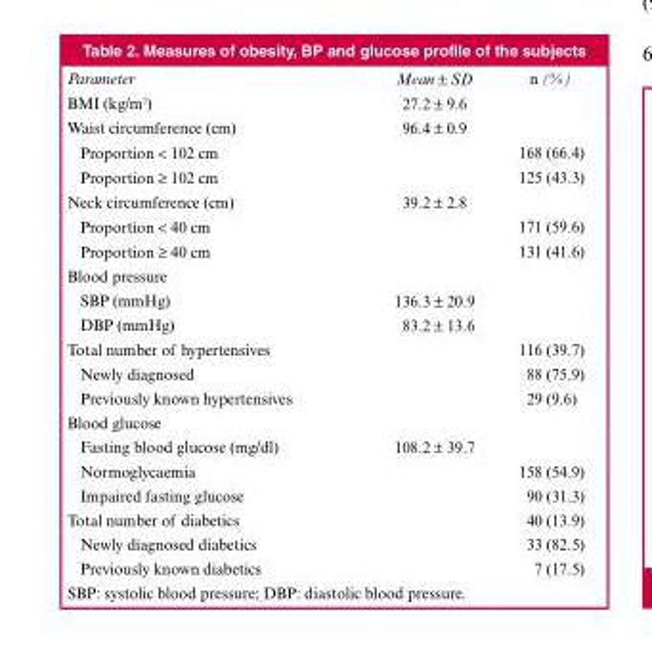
<table><thead><tr><td>Parameter</td><td>Mean ± SD</td><td>n (%)</td></tr></thead><tbody><tr><td>BMI (kg/m<sup>2</sup>)</td><td>27.2 ± 9.6</td><td></td></tr><tr><td>Waist circumference (cm)</td><td>96.4 ± 0.9</td><td></td></tr><tr><td>Proportion &lt; 102 cm</td><td></td><td>168 (66.4)</td></tr><tr><td>Proportion ≥ 102 cm</td><td></td><td>125 (43.3)</td></tr><tr><td>Neck circumference (cm)</td><td>39.2 ± 2.8</td><td></td></tr><tr><td>Proportion &lt; 40 cm</td><td></td><td>171 (59.6)</td></tr><tr><td>Proportion ≥ 40 cm</td><td></td><td>131 (41.6)</td></tr><tr><td colspan="3">Blood pressure</td></tr><tr><td>SBP (mmHg)</td><td>136.3 ± 20.9</td><td></td></tr><tr><td>DBP (mmHg)</td><td>83.2 ± 13.6</td><td></td></tr><tr><td>Total number of hypertensives</td><td></td><td>116 (39.7)</td></tr><tr><td>Newly diagnosed</td><td></td><td>88 (75.9)</td></tr><tr><td>Previously known hypertensives</td><td></td><td>29 (9.6)</td></tr><tr><td colspan="3">Blood glucose</td></tr><tr><td>Fasting blood glucose (mg/dl)</td><td>108.2 ± 39.7</td><td></td></tr><tr><td>Normoglycaemia</td><td></td><td>158 (54.9)</td></tr><tr><td>Impaired fasting glucose</td><td></td><td>90 (31.3)</td></tr><tr><td>Total number of diabetics</td><td></td><td>40 (13.9)</td></tr><tr><td>Newly diagnosed diabetics</td><td></td><td>33 (82.5)</td></tr><tr><td>Previously known diabetics</td><td></td><td>7 (17.5)</td></tr></tbody></table>